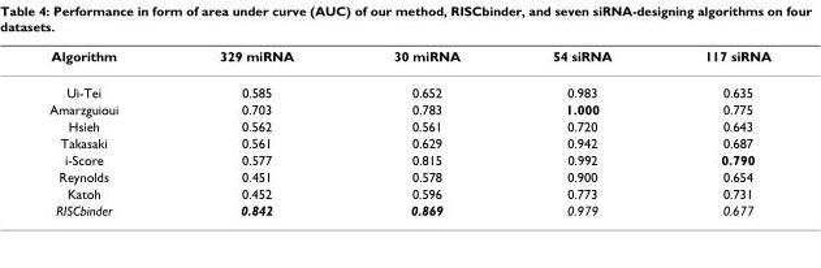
<table><thead><tr><td>Algorithm</td><td>329 miRNA</td><td>30 miRNA</td><td>54 siRNA</td><td>117 siRNA</td></tr></thead><tbody><tr><td>Ui-Tei</td><td>0.585</td><td>0.652</td><td>0.983</td><td>0.635</td></tr><tr><td>Amarzguioui</td><td>0.703</td><td>0.783</td><td>1.000</td><td>0.775</td></tr><tr><td>Hsieh</td><td>0.562</td><td>0.561</td><td>0.720</td><td>0.643</td></tr><tr><td>Takasaki</td><td>0.561</td><td>0.629</td><td>0.942</td><td>0.687</td></tr><tr><td>i-Score</td><td>0.577</td><td>0.815</td><td>0.992</td><td>0.790</td></tr><tr><td>Reynolds</td><td>0.451</td><td>0.578</td><td>0.900</td><td>0.654</td></tr><tr><td>Katoh</td><td>0.452</td><td>0.596</td><td>0.773</td><td>0.731</td></tr><tr><td>RISCbinder</td><td>0.842</td><td>0.869</td><td>0.979</td><td>0.677</td></tr></tbody></table>